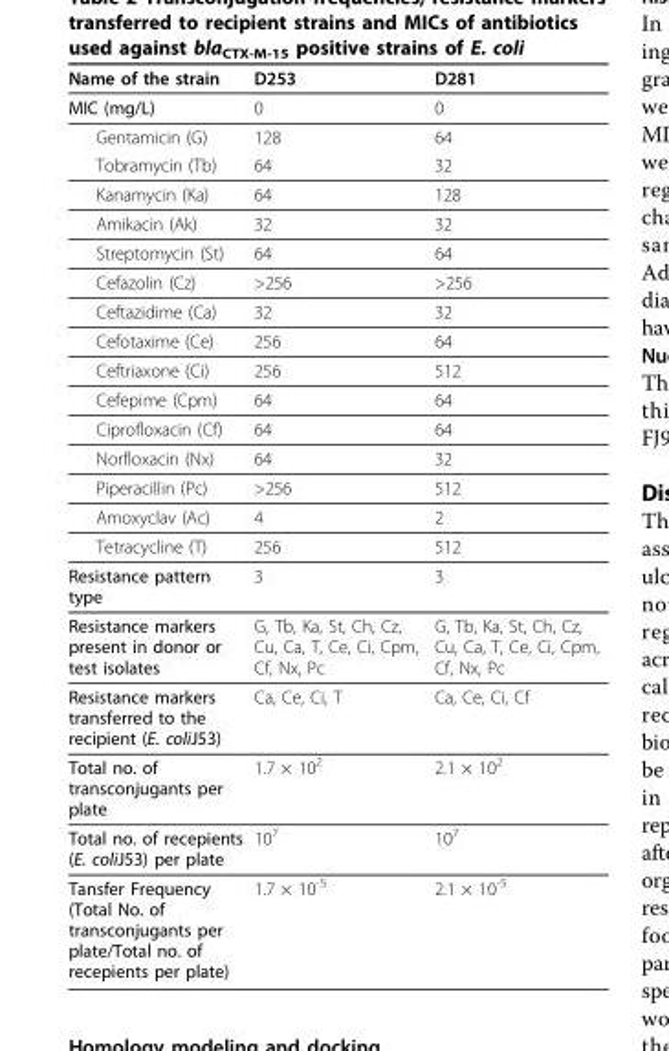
<table><thead><tr><td>Name of the strain</td><td>D253</td><td>D281</td></tr></thead><tbody><tr><td>MIC (mg/L)</td><td>0</td><td>0</td></tr><tr><td>Gentamicin (G)</td><td>128</td><td>64</td></tr><tr><td>Tobramycin (Tb)</td><td>64</td><td>32</td></tr><tr><td>Kanamycin (Ka)</td><td>64</td><td>128</td></tr><tr><td>Amikacin (Ak)</td><td>32</td><td>32</td></tr><tr><td>Streptomycin (St)</td><td>64</td><td>64</td></tr><tr><td>Cefazolin (Cz)</td><td>&gt;256</td><td>&gt;256</td></tr><tr><td>Ceftazidime (Ca)</td><td>32</td><td>32</td></tr><tr><td>Cefotaxime (Ce)</td><td>256</td><td>64</td></tr><tr><td>Ceftriaxone (Ci)</td><td>256</td><td>512</td></tr><tr><td>Cefepime (Cpm)</td><td>64</td><td>64</td></tr><tr><td>Ciprofloxacin (Cf)</td><td>64</td><td>64</td></tr><tr><td>Norfloxacin (Nx)</td><td>64</td><td>32</td></tr><tr><td>Piperacillin (Pc)</td><td>&gt;256</td><td>512</td></tr><tr><td>Amoxyclav (Ac)</td><td>4</td><td>2</td></tr><tr><td>Tetracycline (T)</td><td>256</td><td>512</td></tr><tr><td>Resistance pattern type</td><td>3</td><td>3</td></tr><tr><td>Resistance markers present in donor or test isolates</td><td>G, Tb, Ka, St, Ch, Cz, Cu, Ca, T, Ce, Ci, Cpm, Cf, Nx, Pc</td><td>G, Tb, Ka, St, Ch, Cz, Cu, Ca, T, Ce, Ci, Cpm, Cf, Nx, Pc</td></tr><tr><td>Resistance markers transferred to the recipient (E. coliJ53)</td><td>Ca, Ce, Ci, T</td><td>Ca, Ce, Ci, Cf</td></tr><tr><td>Total no. of transconjugants per plate</td><td>1.7 × 10<sup>2</sup></td><td>2.1 × 10<sup>2</sup></td></tr><tr><td>Total no. of recepients (E. coliJ53) per plate</td><td>10<sup>7</sup></td><td>10<sup>7</sup></td></tr><tr><td>Tansfer Frequency (Total No. of transconjugants per plate/Total no. of recepients per plate)</td><td>1.7 × 10<sup>-5</sup></td><td>2.1 × 10<sup>-5</sup></td></tr></tbody></table>